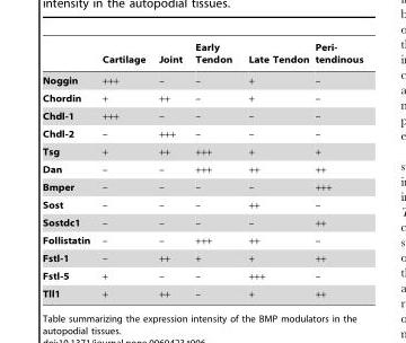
<table><thead><tr><td></td><td>Cartilage</td><td>Joint</td><td>Early Tendon</td><td>Late Tendon</td><td>Peri- tendinous</td></tr></thead><tbody><tr><td>Noggin</td><td>+++</td><td>–</td><td>–</td><td>+</td><td>–</td></tr><tr><td>Chordin</td><td>+</td><td>++</td><td>–</td><td>+</td><td>–</td></tr><tr><td>Chdl-1</td><td>+++</td><td>–</td><td>–</td><td>–</td><td>–</td></tr><tr><td>Chdl-2</td><td>–</td><td>+++</td><td>–</td><td>–</td><td>–</td></tr><tr><td>Tsg</td><td>+</td><td>++</td><td>+++</td><td>+</td><td>+</td></tr><tr><td>Dan</td><td>–</td><td>–</td><td>+++</td><td>++</td><td>++</td></tr><tr><td>Bmper</td><td>–</td><td>–</td><td>–</td><td>–</td><td>+++</td></tr><tr><td>Sost</td><td>–</td><td>–</td><td>–</td><td>++</td><td>–</td></tr><tr><td>Sostdc1</td><td>–</td><td>–</td><td>–</td><td>–</td><td>++</td></tr><tr><td>Follistatin</td><td>–</td><td>–</td><td>+++</td><td>++</td><td>–</td></tr><tr><td>Fstl-1</td><td>–</td><td>++</td><td>+</td><td>+</td><td>++</td></tr><tr><td>Fstl-5</td><td>+</td><td>–</td><td>–</td><td>+++</td><td>–</td></tr><tr><td>Tll1</td><td>+</td><td>++</td><td>–</td><td>+</td><td>++</td></tr></tbody></table>